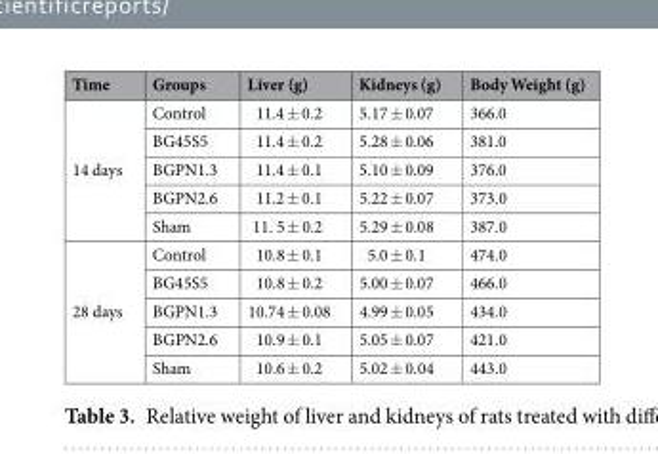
<table><thead><tr><td>Time</td><td>Groups</td><td>Liver (g)</td><td>Kidneys (g)</td><td>Body Weight (g)</td></tr></thead><tbody><tr><td rowspan="5">14 days</td><td>Control</td><td>11.4 ± 0.2</td><td>5.17 ± 0.07</td><td>366.0</td></tr><tr><td>BG45S5</td><td>11.4 ± 0.2</td><td>5.28 ± 0.06</td><td>381.0</td></tr><tr><td>BGPN1.3</td><td>11.4 ± 0.1</td><td>5.10 ± 0.09</td><td>376.0</td></tr><tr><td>BGPN2.6</td><td>11.2 ± 0.1</td><td>5.22 ± 0.07</td><td>373.0</td></tr><tr><td>Sham</td><td>11. 5 ± 0.2</td><td>5.29 ± 0.08</td><td>387.0</td></tr><tr><td rowspan="5">28 days</td><td>Control</td><td>10.8 ± 0.1</td><td>5.0 ± 0.1</td><td>474.0</td></tr><tr><td>BG45S5</td><td>10.8 ± 0.2</td><td>5.00 ± 0.07</td><td>466.0</td></tr><tr><td>BGPN1.3</td><td>10.74 ± 0.08</td><td>4.99 ± 0.05</td><td>434.0</td></tr><tr><td>BGPN2.6</td><td>10.9 ± 0.1</td><td>5.05 ± 0.07</td><td>421.0</td></tr><tr><td>Sham</td><td>10.6 ± 0.2</td><td>5.02 ± 0.04</td><td>443.0</td></tr></tbody></table>